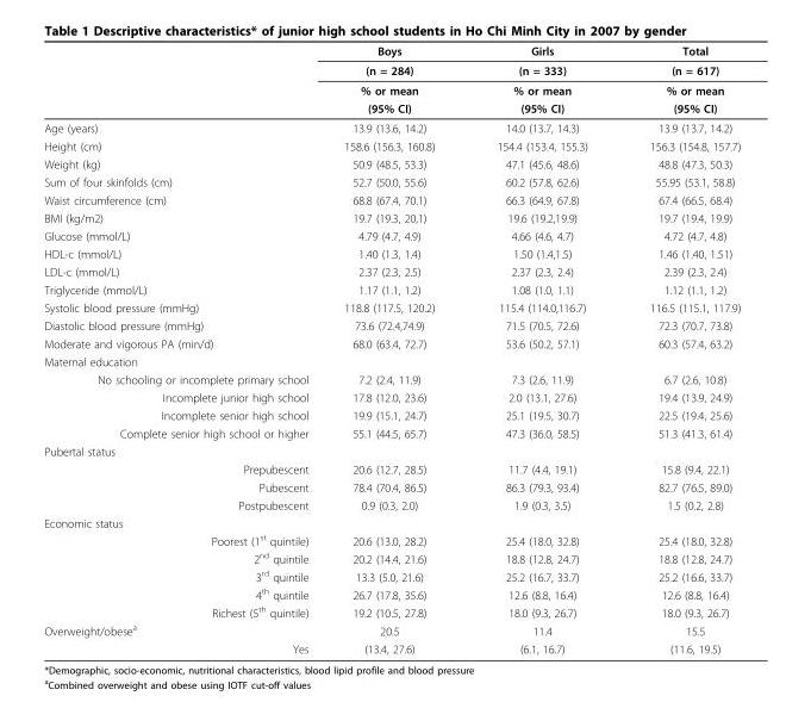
<table><thead><tr><td rowspan="4"></td><td rowspan="4">Boys (n = 284) % or mean (95% CI)</td><td rowspan="4">Girls (n = 333) % or mean (95% CI)</td><td rowspan="4">Total (n = 617) % or mean (95% CI)</td></tr><tr></tr><tr></tr><tr></tr></thead><tbody><tr><td>Age (years)</td><td>13.9 (13.6, 14.2)</td><td>14.0 (13.7, 14.3)</td><td>13.9 (13.7, 14.2)</td></tr><tr><td>Height (cm)</td><td>158.6 (156.3, 160.8)</td><td>154.4 (153.4, 155.3)</td><td>156.3 (154.8, 157.7)</td></tr><tr><td>Weight (kg)</td><td>50.9 (48.5, 53.3)</td><td>47.1 (45.6, 48.6)</td><td>48.8 (47.3, 50.3)</td></tr><tr><td>Sum of four skinfolds (cm)</td><td>52.7 (50.0, 55.6)</td><td>60.2 (57.8, 62.6)</td><td>55.95 (53.1, 58.8)</td></tr><tr><td>Waist circumference (cm)</td><td>68.8 (67.4, 70.1)</td><td>66.3 (64.9, 67.8)</td><td>67.4 (66.5, 68.4)</td></tr><tr><td>BMI (kg/m2)</td><td>19.7 (19.3, 20,1)</td><td>19.6 (19.2,19.9)</td><td>19.7 (19.4, 19.9)</td></tr><tr><td>Glucose (mmol/L)</td><td>4.79 (4.7, 4.9)</td><td>4.66 (4.6, 4.7)</td><td>4.72 (4.7, 4.8)</td></tr><tr><td>HDL-c (mmol/L)</td><td>1.40 (1.3, 1.4)</td><td>1.50 (1.4,1.5)</td><td>1.46 (1.40, 1.51)</td></tr><tr><td>LDL-c (mmol/L)</td><td>2.37 (2.3, 2.5)</td><td>2.37 (2.3, 2.4)</td><td>2.39 (2.3, 2.4)</td></tr><tr><td>Triglyceride (mmol/L)</td><td>1.17 (1.1, 1.2)</td><td>1.08 (1.0, 1.1)</td><td>1.12 (1.1, 1.2)</td></tr><tr><td>Systolic blood pressure (mmHg)</td><td>118.8 (117.5, 120.2)</td><td>115.4 (114.0,116.7)</td><td>116.5 (115.1, 117.9)</td></tr><tr><td>Diastolic blood pressure (mmHg)</td><td>73.6 (72.4,74.9)</td><td>71.5 (70.5, 72.6)</td><td>72.3 (70.7, 73.8)</td></tr><tr><td>Moderate and vigorous PA (min/d)</td><td>68.0 (63.4, 72.7)</td><td>53.6 (50.2, 57.1)</td><td>60.3 (57.4, 63.2)</td></tr><tr><td colspan="4">Maternal education</td></tr><tr><td>No schooling or incomplete primary school</td><td>7.2 (2.4, 11.9)</td><td>7.3 (2.6, 11.9)</td><td>6.7 (2.6, 10.8)</td></tr><tr><td>Incomplete junior high school</td><td>17.8 (12.0, 23.6)</td><td>2.0 (13.1, 27.6)</td><td>19.4 (13.9, 24.9)</td></tr><tr><td>Incomplete senior high school</td><td>19.9 (15.1, 24.7)</td><td>25.1 (19.5, 30.7)</td><td>22.5 (19.4, 25.6)</td></tr><tr><td>Complete senior high school or higher</td><td>55.1 (44.5, 65.7)</td><td>47.3 (36.0, 58.5)</td><td>51.3 (41.3, 61.4)</td></tr><tr><td colspan="4">Pubertal status</td></tr><tr><td>Prepubescent</td><td>20.6 (12.7, 28.5)</td><td>11.7 (4.4, 19.1)</td><td>15.8 (9.4, 22.1)</td></tr><tr><td>Pubescent</td><td>78.4 (70.4, 86.5)</td><td>86.3 (79.3, 93.4)</td><td>82.7 (76.5, 89.0)</td></tr><tr><td>Postpubescent</td><td>0.9 (0.3, 2.0)</td><td>1.9 (0.3, 3.5)</td><td>1.5 (0.2, 2.8)</td></tr><tr><td colspan="4">Economic status</td></tr><tr><td>Poorest (1<sup>st</sup> quintile)</td><td>20.6 (13.0, 28.2)</td><td>25.4 (18.0, 32.8)</td><td>25.4 (18.0, 32.8)</td></tr><tr><td>2<sup>nd</sup> quintile</td><td>20.2 (14.4, 21.6)</td><td>18.8 (12.8, 24.7)</td><td>18.8 (12.8, 24.7)</td></tr><tr><td>3<sup>rd</sup> quintile</td><td>13.3 (5.0, 21.6)</td><td>25.2 (16.7, 33.7)</td><td>25.2 (16.6, 33.7)</td></tr><tr><td>4<sup>th</sup> quintile</td><td>26.7 (17.8, 35.6)</td><td>12.6 (8.8, 16.4)</td><td>12.6 (8.8, 16.4)</td></tr><tr><td>Richest (5<sup>th</sup> quintile)</td><td>19.2 (10.5, 27.8)</td><td>18.0 (9.3, 26.7)</td><td>18.0 (9.3, 26.7)</td></tr><tr><td>Overweight/obese<sup>a</sup></td><td>20.5</td><td>11.4</td><td>15.5</td></tr><tr><td>Yes</td><td>(13.4, 27.6)</td><td>(6.1, 16.7)</td><td>(11.6, 19.5)</td></tr></tbody></table>